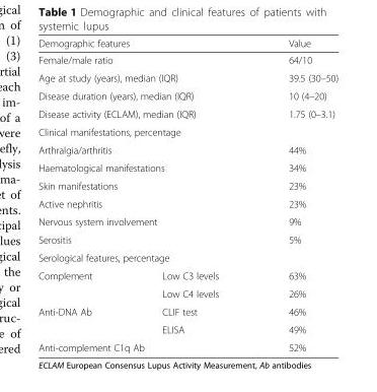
<table><thead><tr><td colspan="2">Demographic features</td><td>Value</td></tr></thead><tbody><tr><td colspan="2">Female/male ratio</td><td>64/10</td></tr><tr><td colspan="2">Age at study (years), median (IQR)</td><td>39.5 (30–50)</td></tr><tr><td colspan="2">Disease duration (years), median (IQR)</td><td>10 (4–20)</td></tr><tr><td colspan="2">Disease activity (ECLAM), median (IQR)</td><td>1.75 (0–3.1)</td></tr><tr><td colspan="3">Clinical manifestations, percentage</td></tr><tr><td colspan="2">Arthralgia/arthritis</td><td>44%</td></tr><tr><td colspan="2">Haematological manifestations</td><td>34%</td></tr><tr><td colspan="2">Skin manifestations</td><td>23%</td></tr><tr><td colspan="2">Active nephritis</td><td>23%</td></tr><tr><td colspan="2">Nervous system involvement</td><td>9%</td></tr><tr><td colspan="2">Serositis</td><td>5%</td></tr><tr><td colspan="3">Serological features, percentage</td></tr><tr><td rowspan="2">Complement</td><td>Low C3 levels</td><td>63%</td></tr><tr><td>Low C4 levels</td><td>26%</td></tr><tr><td rowspan="2">Anti-DNA Ab</td><td>CLIF test</td><td>46%</td></tr><tr><td>ELISA</td><td>49%</td></tr><tr><td colspan="2">Anti-complement C1q Ab</td><td>52%</td></tr></tbody></table>